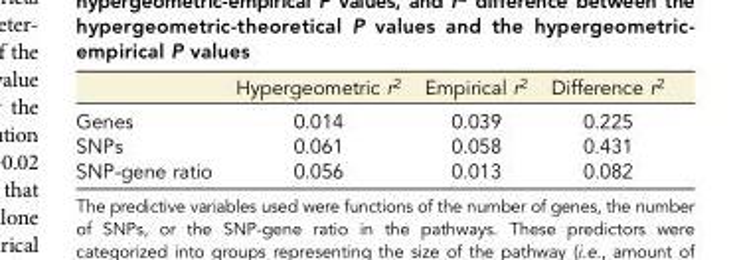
<table><thead><tr><td></td><td>Hypergeometric r<sup>2</sup></td><td>Empirical r<sup>2</sup></td><td>Difference r<sup>2</sup></td></tr></thead><tbody><tr><td>Genes</td><td>0.014</td><td>0.039</td><td>0.225</td></tr><tr><td>SNPs</td><td>0.061</td><td>0.058</td><td>0.431</td></tr><tr><td>SNP-gene ratio</td><td>0.056</td><td>0.013</td><td>0.082</td></tr></tbody></table>